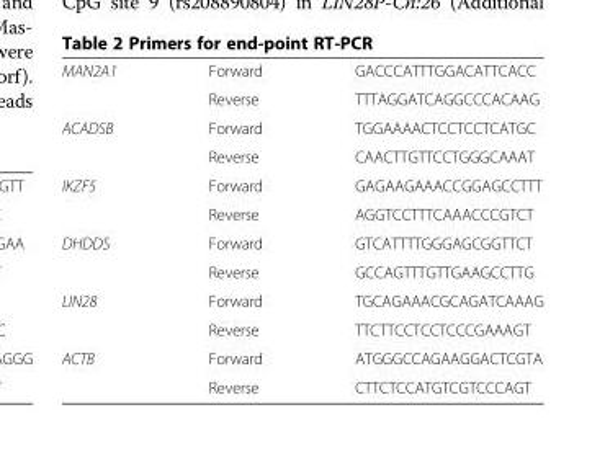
<table><tbody><tr><td rowspan="2">MAN2A1</td><td>Forward</td><td>GACCCATTTGGACATTCACC</td></tr><tr><td>Reverse</td><td>TTTAGGATCAGGCCCACAAG</td></tr><tr><td rowspan="2">ACADSB</td><td>Forward</td><td>TGGAAAACTCCTCCTCATGC</td></tr><tr><td>Reverse</td><td>CAACTTGTTCCTGGGCAAAT</td></tr><tr><td rowspan="2">IKZF5</td><td>Forward</td><td>GAGAAGAAACCGGAGCCTTT</td></tr><tr><td>Reverse</td><td>AGGTCCTTTCAAACCCGTCT</td></tr><tr><td rowspan="2">DHDDS</td><td>Forward</td><td>GTCATTTTGGGAGCGGTTCT</td></tr><tr><td>Reverse</td><td>GCCAGTTTGTTGAAGCCTTG</td></tr><tr><td rowspan="2">LIN28</td><td>Forward</td><td>TGCAGAAACGCAGATCAAAG</td></tr><tr><td>Reverse</td><td>TTCTTCCTCCTCCCGAAAGT</td></tr><tr><td rowspan="2">ACTB</td><td>Forward</td><td>ATGGGCCAGAAGGACTCGTA</td></tr><tr><td>Reverse</td><td>CTTCTCCATGTCGTCCCAGT</td></tr></tbody></table>